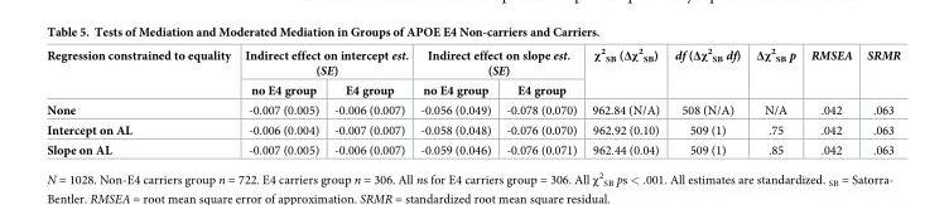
<table><thead><tr><td rowspan="2">Regression constrained to equality</td><td colspan="2">Indirect effect on intercept est. (SE)</td><td colspan="2">Indirect effect on slope est. (SE)</td><td rowspan="2">χ<sup>2</sup> <sub>SB</sub> (Δχ<sup>2</sup> <sub>SB</sub>)</td><td rowspan="2">df (Δχ<sup>2</sup> <sub>SB</sub> df)</td><td rowspan="2">Δχ<sup>2</sup> <sub>SB</sub> p</td><td rowspan="2">RMSEA</td><td rowspan="2">SRMR</td></tr><tr><td>no E4 group</td><td>E4 group</td><td>no E4 group</td><td>E4 group</td></tr></thead><tbody><tr><td>None</td><td>-0.007 (0.005)</td><td>-0.006 (0.007)</td><td>-0.056 (0.049)</td><td>-0.078 (0.070)</td><td>962.84 (N/A)</td><td>508 (N/A)</td><td>N/A</td><td>.042</td><td>.063</td></tr><tr><td>Intercept on AL</td><td>-0.006 (0.004)</td><td>-0.007 (0.007)</td><td>-0.058 (0.048)</td><td>-0.076 (0.070)</td><td>962.92 (0.10)</td><td>509 (1)</td><td>.75</td><td>.042</td><td>.063</td></tr><tr><td>Slope on AL</td><td>-0.007 (0.005)</td><td>-0.006 (0.007)</td><td>-0.059 (0.046)</td><td>-0.076 (0.071)</td><td>962.44 (0.04)</td><td>509 (1)</td><td>.85</td><td>.042</td><td>.063</td></tr></tbody></table>